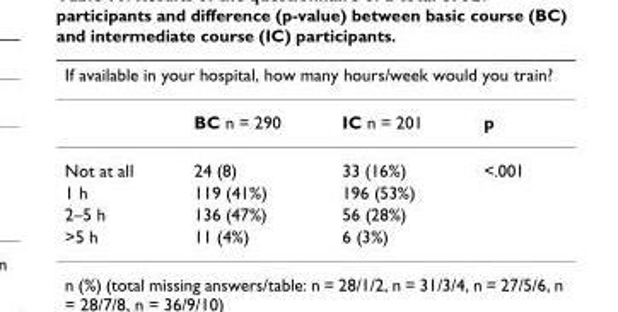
<table><thead><tr><td colspan="4">If available in your hospital, how many hours/week would you train?</td></tr><tr><td></td><td>BC n = 290</td><td>IC n = 201</td><td>p</td></tr></thead><tbody><tr><td>Not at all</td><td>24 (8)</td><td>33 (16%)</td><td>&lt;.001</td></tr><tr><td>1 h</td><td>119 (41%)</td><td>196 (53%)</td><td></td></tr><tr><td>2–5 h</td><td>136 (47%)</td><td>56 (28%)</td><td></td></tr><tr><td>&gt;5 h</td><td>11 (4%)</td><td>6 (3%)</td><td></td></tr></tbody></table>